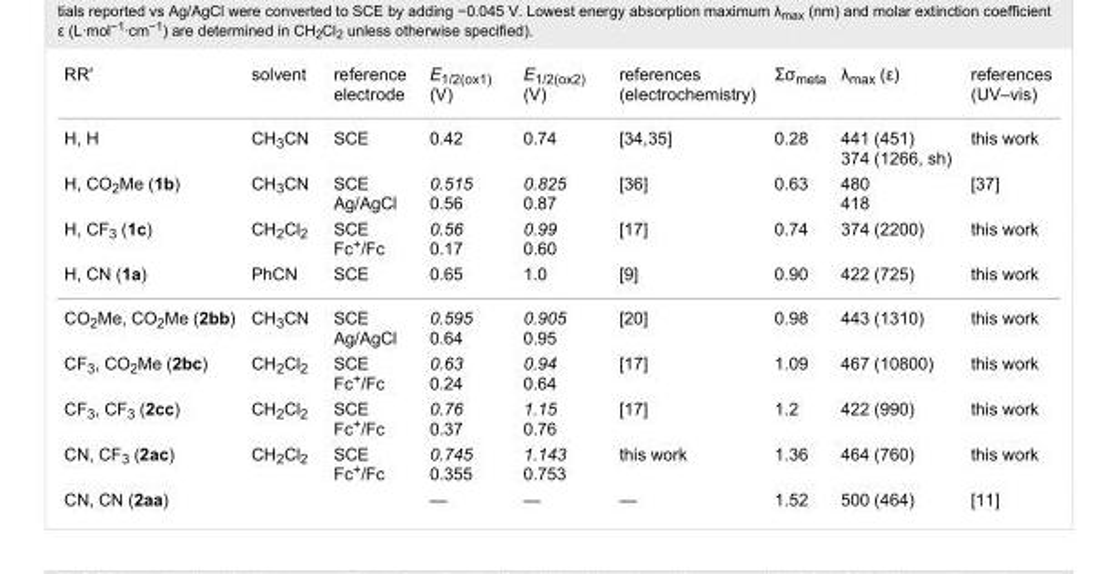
<table><tbody><tr><td>RR′</td><td>solvent</td><td>reference electrode</td><td>E<sub>1/2(ox1)</sub> (V)</td><td>E<sub>1/2(ox2)</sub> (V)</td><td>references (electrochemistry)</td><td>Σσ<sub>meta</sub></td><td>λ<sub>max</sub> (ε)</td><td>references (UV–vis)</td></tr><tr><td>H, H</td><td>CH<sub>3</sub>CN</td><td>SCE</td><td>0.42</td><td>0.74</td><td>[34–35]</td><td>0.28</td><td>441 (451) 374 (1266, sh)</td><td>this work</td></tr><tr><td>H, CO<sub>2</sub>Me (1b)</td><td>CH<sub>3</sub>CN</td><td>SCE Ag/AgCl</td><td>0.515 0.56</td><td>0.825 0.87</td><td>[36]</td><td>0.63</td><td>480 418</td><td>[37]</td></tr><tr><td>H, CF<sub>3</sub> (1c)</td><td>CH<sub>2</sub>Cl<sub>2</sub></td><td>SCE Fc<sup>+</sup>/Fc</td><td>0.56 0.17</td><td>0.99 0.60</td><td>[17]</td><td>0.74</td><td>374 (2200)</td><td>this work</td></tr><tr><td>H, CN (1a)</td><td>PhCN</td><td>SCE</td><td>0.65</td><td>1.0</td><td>[9]</td><td>0.90</td><td>422 (725)</td><td>this work</td></tr><tr><td>CO<sub>2</sub>Me, CO<sub>2</sub>Me (2bb)</td><td>CH<sub>3</sub>CN</td><td>SCE Ag/AgCl</td><td>0.595 0.64</td><td>0.905 0.95</td><td>[20]</td><td>0.98</td><td>443 (1310)</td><td>this work</td></tr><tr><td>CF<sub>3</sub>, CO<sub>2</sub>Me (2bc)</td><td>CH<sub>2</sub>Cl<sub>2</sub></td><td>SCE Fc<sup>+</sup>/Fc</td><td>0.63 0.24</td><td>0.94 0.64</td><td>[17]</td><td>1.09</td><td>467 (10800)</td><td>this work</td></tr><tr><td>CF<sub>3</sub>, CF<sub>3</sub> (2cc)</td><td>CH<sub>2</sub>Cl<sub>2</sub></td><td>SCE Fc<sup>+</sup>/Fc</td><td>0.76 0.37</td><td>1.15 0.76</td><td>[17]</td><td>1.2</td><td>422 (990)</td><td>this work</td></tr><tr><td>CN, CF<sub>3</sub> (2ac)</td><td>CH<sub>2</sub>Cl<sub>2</sub></td><td>SCE Fc<sup>+</sup>/Fc</td><td>0.745 0.355</td><td>1.143 0.753</td><td>this work</td><td>1.36</td><td>464 (760)</td><td>this work</td></tr><tr><td>CN, CN (2aa)</td><td></td><td></td><td>—</td><td>—</td><td>—</td><td>1.52</td><td>500 (464)</td><td>[11]</td></tr></tbody></table>